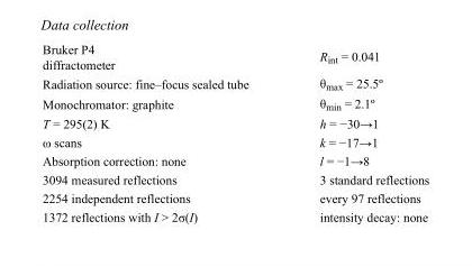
<table><tbody><tr><td>Bruker P4 diffractometer</td><td>R<sub>int</sub> = 0.041</td></tr><tr><td>Radiation source: fine–focus sealed tube</td><td>θ<sub>max</sub> = 25.5º</td></tr><tr><td>Monochromator: graphite</td><td>θ<sub>min</sub> = 2.1º</td></tr><tr><td>T = 295(2) K</td><td>h = −30→1</td></tr><tr><td>ω scans</td><td>k = −17→1</td></tr><tr><td>Absorption correction: none</td><td>l = −1→8</td></tr><tr><td>3094 measured reflections</td><td>3 standard reflections</td></tr><tr><td>2254 independent reflections</td><td>every 97 reflections</td></tr><tr><td>1372 reflections with I &gt; 2σ(I)</td><td>intensity decay: none</td></tr></tbody></table>